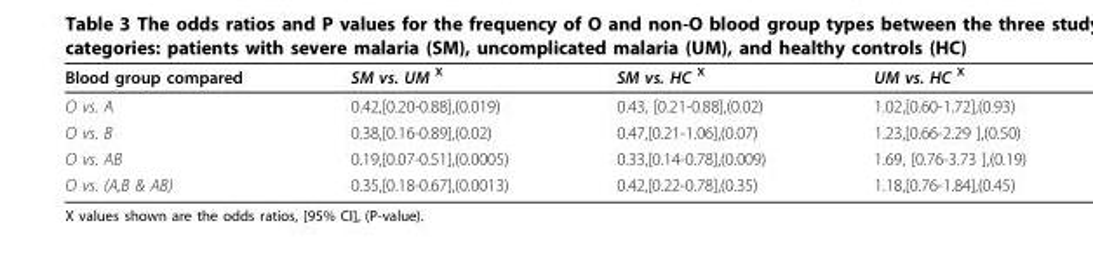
<table><thead><tr><td>Blood group compared</td><td>SM vs. UM <sup>X</sup></td><td>SM vs. HC <sup>X</sup></td><td>UM vs. HC <sup>X</sup></td></tr></thead><tbody><tr><td>O vs. A</td><td>0.42,[0.20-0.88],(0.019)</td><td>0.43, [0.21-0.88],(0.02)</td><td>1.02,[0.60-1.72],(0.93)</td></tr><tr><td>O vs. B</td><td>0.38,[0.16-0.89],(0.02)</td><td>0.47,[0.21-1.06],(0.07)</td><td>1.23,[0.66-2.29 ],(0.50)</td></tr><tr><td>O vs. AB</td><td>0.19,[0.07-0.51],(0.0005)</td><td>0.33,[0.14-0.78],(0.009)</td><td>1.69, [0.76-3.73 ],(0.19)</td></tr><tr><td>O vs. (A,B &amp; AB)</td><td>0.35,[0.18-0.67],(0.0013)</td><td>0.42,[0.22-0.78],(0.35)</td><td>1.18,[0.76-1.84],(0.45)</td></tr></tbody></table>